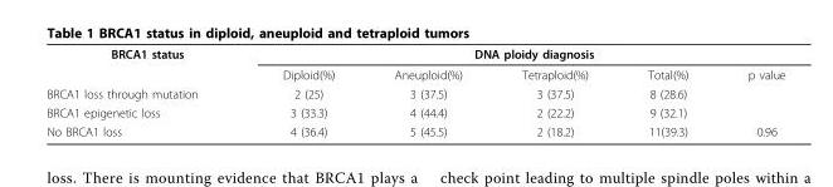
<table><tbody><tr><td rowspan="2">BRCA1 status</td><td colspan="5">DNA ploidy diagnosis</td></tr><tr><td>Diploid(%)</td><td>Aneuploid(%)</td><td>Tetraploid(%)</td><td>Total(%)</td><td>p value</td></tr><tr><td>BRCA1 loss through mutation</td><td>2 (25)</td><td>3 (37.5)</td><td>3 (37.5)</td><td>8 (28.6)</td><td></td></tr><tr><td>BRCA1 epigenetic loss</td><td>3 (33.3)</td><td>4 (44.4)</td><td>2 (22.2)</td><td>9 (32.1)</td><td></td></tr><tr><td>No BRCA1 loss</td><td>4 (36.4)</td><td>5 (45.5)</td><td>2 (18.2)</td><td>11(39.3)</td><td>0.96</td></tr></tbody></table>